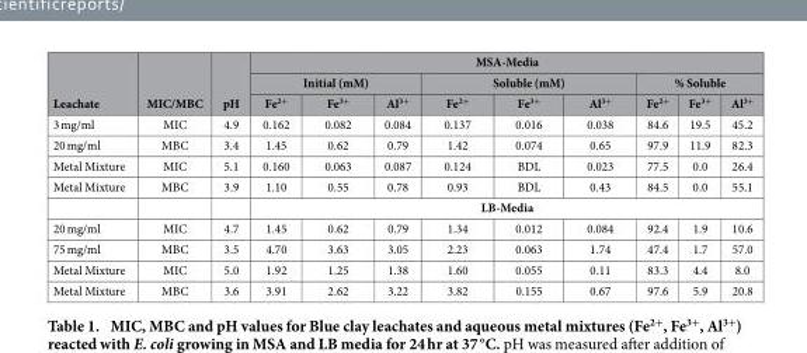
<table><thead><tr><td rowspan="3">Leachate</td><td rowspan="3">MIC/MBC</td><td rowspan="3">pH</td><td colspan="9">MSA-Media</td></tr><tr><td colspan="3">Initial (mM)</td><td colspan="3">Soluble (mM)</td><td colspan="3">% Soluble</td></tr><tr><td>Fe<sup>2+</sup></td><td>Fe<sup>3+</sup></td><td>Al<sup>3+</sup></td><td>Fe<sup>2+</sup></td><td>Fe<sup>3+</sup></td><td>Al<sup>3+</sup></td><td>Fe<sup>2+</sup></td><td>Fe<sup>3+</sup></td><td>Al<sup>3+</sup></td></tr></thead><tbody><tr><td>3 mg/ml</td><td>MIC</td><td>4.9</td><td>0.162</td><td>0.082</td><td>0.084</td><td>0.137</td><td>0.016</td><td>0.038</td><td>84.6</td><td>19.5</td><td>45.2</td></tr><tr><td>20 mg/ml</td><td>MBC</td><td>3.4</td><td>1.45</td><td>0.62</td><td>0.79</td><td>1.42</td><td>0.074</td><td>0.65</td><td>97.9</td><td>11.9</td><td>82.3</td></tr><tr><td>Metal Mixture</td><td>MIC</td><td>5.1</td><td>0.160</td><td>0.063</td><td>0.087</td><td>0.124</td><td>BDL</td><td>0.023</td><td>77.5</td><td>0.0</td><td>26.4</td></tr><tr><td rowspan="2">Metal Mixture</td><td>MBC</td><td>3.9</td><td>1.10</td><td>0.55</td><td>0.78</td><td>0.93</td><td>BDL</td><td>0.43</td><td>84.5</td><td>0.0</td><td>55.1</td></tr><tr><td></td><td></td><td colspan="9">LB-Media</td></tr><tr><td>20 mg/ml</td><td>MIC</td><td>4.7</td><td>1.45</td><td>0.62</td><td>0.79</td><td>1.34</td><td>0.012</td><td>0.084</td><td>92.4</td><td>1.9</td><td>10.6</td></tr><tr><td>75 mg/ml</td><td>MBC</td><td>3.5</td><td>4.70</td><td>3.63</td><td>3.05</td><td>2.23</td><td>0.063</td><td>1.74</td><td>47.4</td><td>1.7</td><td>57.0</td></tr><tr><td>Metal Mixture</td><td>MIC</td><td>5.0</td><td>1.92</td><td>1.25</td><td>1.38</td><td>1.60</td><td>0.055</td><td>0.11</td><td>83.3</td><td>4.4</td><td>8.0</td></tr><tr><td>Metal Mixture</td><td>MBC</td><td>3.6</td><td>3.91</td><td>2.62</td><td>3.22</td><td>3.82</td><td>0.155</td><td>0.67</td><td>97.6</td><td>5.9</td><td>20.8</td></tr></tbody></table>